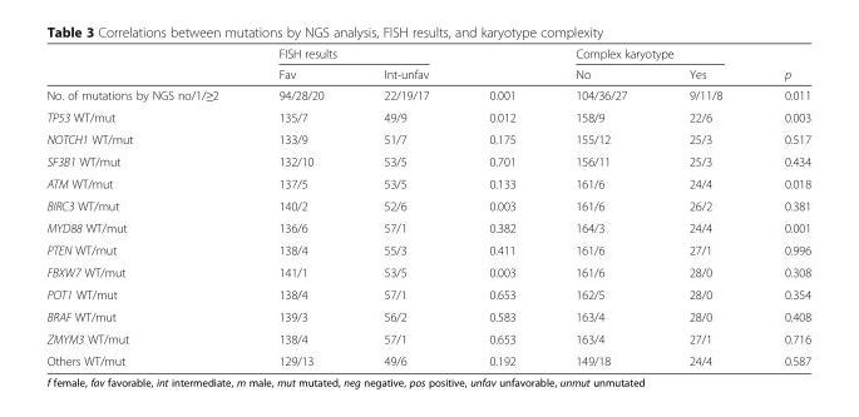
<table><thead><tr><td rowspan="2"></td><td colspan="2">FISH results</td><td rowspan="2"></td><td colspan="2">Complex karyotype</td><td rowspan="2">p</td></tr><tr><td>Fav</td><td>Int-unfav</td><td>No</td><td>Yes</td></tr></thead><tbody><tr><td>No. of mutations by NGS no/1/≥2</td><td>94/28/20</td><td>22/19/17</td><td>0.001</td><td>104/36/27</td><td>9/11/8</td><td>0.011</td></tr><tr><td>TP53 WT/mut</td><td>135/7</td><td>49/9</td><td>0.012</td><td>158/9</td><td>22/6</td><td>0.003</td></tr><tr><td>NOTCH1 WT/mut</td><td>133/9</td><td>51/7</td><td>0.175</td><td>155/12</td><td>25/3</td><td>0.517</td></tr><tr><td>SF3B1 WT/mut</td><td>132/10</td><td>53/5</td><td>0.701</td><td>156/11</td><td>25/3</td><td>0.434</td></tr><tr><td>ATM WT/mut</td><td>137/5</td><td>53/5</td><td>0.133</td><td>161/6</td><td>24/4</td><td>0.018</td></tr><tr><td>BIRC3 WT/mut</td><td>140/2</td><td>52/6</td><td>0.003</td><td>161/6</td><td>26/2</td><td>0.381</td></tr><tr><td>MYD88 WT/mut</td><td>136/6</td><td>57/1</td><td>0.382</td><td>164/3</td><td>24/4</td><td>0.001</td></tr><tr><td>PTEN WT/mut</td><td>138/4</td><td>55/3</td><td>0.411</td><td>161/6</td><td>27/1</td><td>0.996</td></tr><tr><td>FBXW7 WT/mut</td><td>141/1</td><td>53/5</td><td>0.003</td><td>161/6</td><td>28/0</td><td>0.308</td></tr><tr><td>POT1 WT/mut</td><td>138/4</td><td>57/1</td><td>0.653</td><td>162/5</td><td>28/0</td><td>0.354</td></tr><tr><td>BRAF WT/mut</td><td>139/3</td><td>56/2</td><td>0.583</td><td>163/4</td><td>28/0</td><td>0.408</td></tr><tr><td>ZMYM3 WT/mut</td><td>138/4</td><td>57/1</td><td>0.653</td><td>163/4</td><td>27/1</td><td>0.716</td></tr><tr><td>Others WT/mut</td><td>129/13</td><td>49/6</td><td>0.192</td><td>149/18</td><td>24/4</td><td>0.587</td></tr></tbody></table>